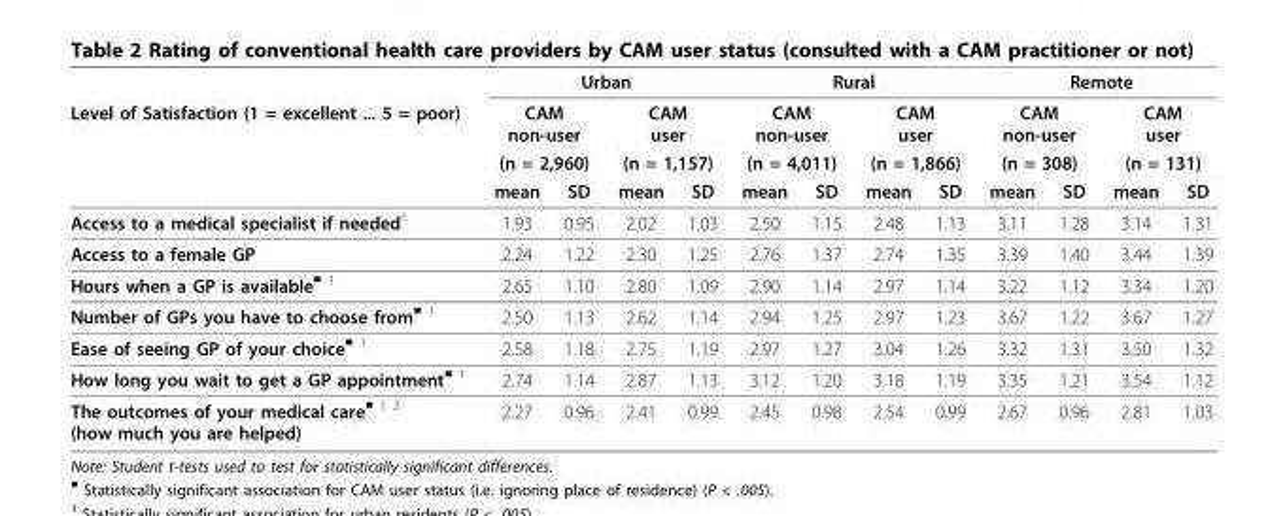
<table><thead><tr><td rowspan="4">Level of Satisfaction (1 = excellent ... 5 = poor)</td><td colspan="4">Urban</td><td colspan="4">Rural</td><td colspan="4">Remote</td></tr><tr><td rowspan="2" colspan="2">CAM non-user (n = 2,960)</td><td rowspan="2" colspan="2">CAM user (n = 1,157)</td><td rowspan="2" colspan="2">CAM non-user (n = 4,011)</td><td rowspan="2" colspan="2">CAM user (n = 1,866)</td><td rowspan="2" colspan="2">CAM non-user (n = 308)</td><td rowspan="2" colspan="2">CAM user (n = 131)</td></tr><tr></tr><tr><td>mean</td><td>SD</td><td>mean</td><td>SD</td><td>mean</td><td>SD</td><td>mean</td><td>SD</td><td>mean</td><td>SD</td><td>mean</td><td>SD</td></tr></thead><tbody><tr><td>Access to a medical specialist if needed<sup>1</sup></td><td>1.93</td><td>0.95</td><td>2.02</td><td>1.03</td><td>2.50</td><td>1.15</td><td>2.48</td><td>1.13</td><td>3.11</td><td>1.28</td><td>3.14</td><td>1.31</td></tr><tr><td>Access to a female GP</td><td>2.24</td><td>1.22</td><td>2.30</td><td>1.25</td><td>2.76</td><td>1.37</td><td>2.74</td><td>1.35</td><td>3.39</td><td>1.40</td><td>3.44</td><td>1.39</td></tr><tr><td>Hours when a GP is available<sup>■ 1</sup></td><td>2.65</td><td>1.10</td><td>2.80</td><td>1.09</td><td>2.90</td><td>1.14</td><td>2.97</td><td>1.14</td><td>3.22</td><td>1.12</td><td>3.34</td><td>1.20</td></tr><tr><td>Number of GPs you have to choose from<sup>■ 1</sup></td><td>2.50</td><td>1.13</td><td>2.62</td><td>1.14</td><td>2.94</td><td>1.25</td><td>2.97</td><td>1.23</td><td>3.67</td><td>1.22</td><td>3.67</td><td>1.27</td></tr><tr><td>Ease of seeing GP of your choice<sup>■ 1</sup></td><td>2.58</td><td>1.18</td><td>2.75</td><td>1.19</td><td>2.97</td><td>1.27</td><td>3.04</td><td>1.26</td><td>3.32</td><td>1.31</td><td>3.50</td><td>1.32</td></tr><tr><td>How long you wait to get a GP appointment<sup>■ 1</sup></td><td>2.74</td><td>1.14</td><td>2.87</td><td>1.13</td><td>3.12</td><td>1.20</td><td>3.18</td><td>1.19</td><td>3.35</td><td>1.21</td><td>3.54</td><td>1.12</td></tr><tr><td>The outcomes of your medical care<sup>■ 1 2</sup> (how much you are helped)</td><td>2.27</td><td>0.96</td><td>2.41</td><td>0.99</td><td>2.45</td><td>0.98</td><td>2.54</td><td>0.99</td><td>2.67</td><td>0.96</td><td>2.81</td><td>1.03</td></tr></tbody></table>